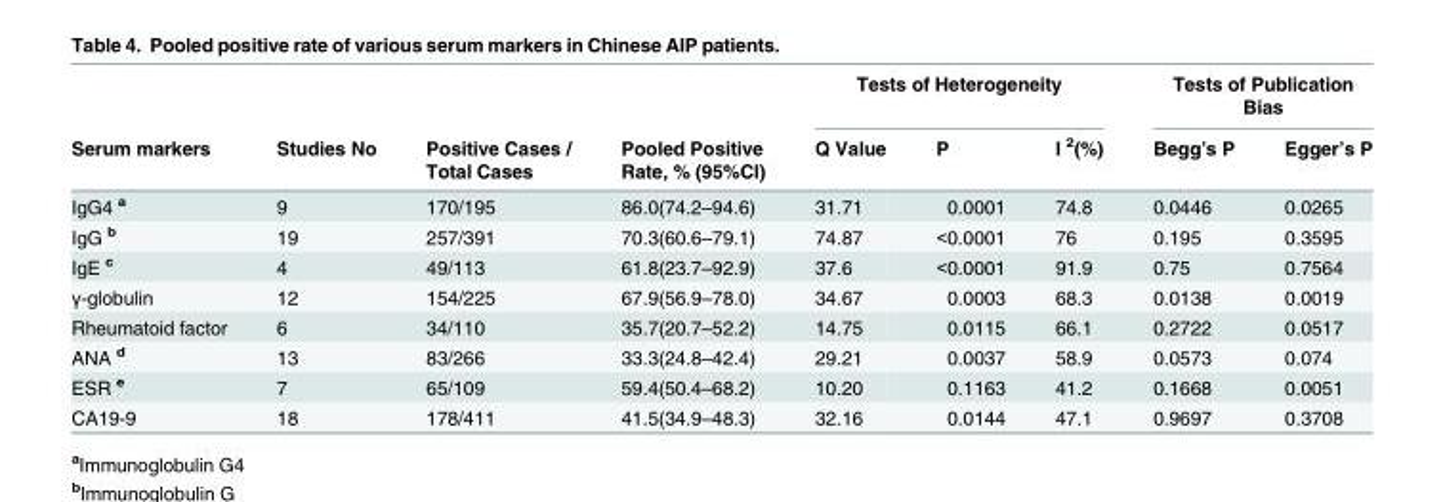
<table><thead><tr><td rowspan="2">Serum markers</td><td rowspan="2">Studies No</td><td rowspan="2">Positive Cases / Total Cases</td><td rowspan="2">Pooled Positive Rate, % (95%CI)</td><td colspan="3">Tests of Heterogeneity</td><td colspan="2">Tests of Publication Bias</td></tr><tr><td>Q Value</td><td>P</td><td>I <sup>2</sup>(%)</td><td>Begg’s P</td><td>Egger’s P</td></tr></thead><tbody><tr><td>IgG4 <sup>a</sup></td><td>9</td><td>170/195</td><td>86.0(74.2–94.6)</td><td>31.71</td><td>0.0001</td><td>74.8</td><td>0.0446</td><td>0.0265</td></tr><tr><td>IgG <sup>b</sup></td><td>19</td><td>257/391</td><td>70.3(60.6–79.1)</td><td>74.87</td><td>&lt;0.0001</td><td>76</td><td>0.195</td><td>0.3595</td></tr><tr><td>IgE <sup>c</sup></td><td>4</td><td>49/113</td><td>61.8(23.7–92.9)</td><td>37.6</td><td>&lt;0.0001</td><td>91.9</td><td>0.75</td><td>0.7564</td></tr><tr><td>γ-globulin</td><td>12</td><td>154/225</td><td>67.9(56.9–78.0)</td><td>34.67</td><td>0.0003</td><td>68.3</td><td>0.0138</td><td>0.0019</td></tr><tr><td>Rheumatoid factor</td><td>6</td><td>34/110</td><td>35.7(20.7–52.2)</td><td>14.75</td><td>0.0115</td><td>66.1</td><td>0.2722</td><td>0.0517</td></tr><tr><td>ANA <sup>d</sup></td><td>13</td><td>83/266</td><td>33.3(24.8–42.4)</td><td>29.21</td><td>0.0037</td><td>58.9</td><td>0.0573</td><td>0.074</td></tr><tr><td>ESR <sup>e</sup></td><td>7</td><td>65/109</td><td>59.4(50.4–68.2)</td><td>10.20</td><td>0.1163</td><td>41.2</td><td>0.1668</td><td>0.0051</td></tr><tr><td>CA19-9</td><td>18</td><td>178/411</td><td>41.5(34.9–48.3)</td><td>32.16</td><td>0.0144</td><td>47.1</td><td>0.9697</td><td>0.3708</td></tr></tbody></table>